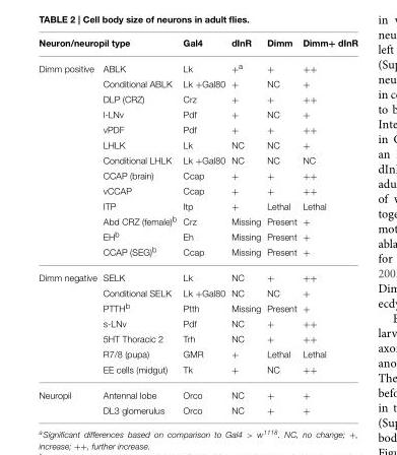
<table><thead><tr><td colspan="2">Neuron/neuropil type</td><td rowspan="2">Gal4 Lk</td><td rowspan="2">dInR +<sup>a</sup></td><td rowspan="2">Dimm +</td><td rowspan="2">Dimm+ dInR ++</td></tr><tr><td>Dimm positive</td><td>ABLK</td></tr></thead><tbody><tr><td></td><td>Conditional ABLK</td><td>Lk +Gal80</td><td>+</td><td>NC</td><td>+</td></tr><tr><td></td><td>DLP (CRZ)</td><td>Crz</td><td>+</td><td>+</td><td>++</td></tr><tr><td></td><td>l-LNv</td><td>Pdf</td><td>+</td><td>NC</td><td>+</td></tr><tr><td></td><td>vPDF</td><td>Pdf</td><td>+</td><td>+</td><td>++</td></tr><tr><td></td><td>LHLK</td><td>Lk</td><td>NC</td><td>NC</td><td>+</td></tr><tr><td></td><td>Conditional LHLK</td><td>Lk +Gal80</td><td>NC</td><td>NC</td><td>NC</td></tr><tr><td></td><td>CCAP (brain)</td><td>Ccap</td><td>+</td><td>+</td><td>++</td></tr><tr><td></td><td>vCCAP</td><td>Ccap</td><td>+</td><td>+</td><td>++</td></tr><tr><td></td><td>ITP</td><td>Itp</td><td>+</td><td>Lethal</td><td>Lethal</td></tr><tr><td></td><td>Abd CRZ (female)<sup>b</sup></td><td>Crz</td><td>Missing</td><td>Present</td><td>+</td></tr><tr><td></td><td>EH<sup>b</sup></td><td>Eh</td><td>Missing</td><td>Present</td><td>+</td></tr><tr><td></td><td>CCAP (SEG)<sup>b</sup></td><td>Ccap</td><td>Missing</td><td>Present</td><td>+</td></tr><tr><td rowspan="7">Dimm negative</td><td>SELK</td><td>Lk</td><td>NC</td><td>+</td><td>++</td></tr><tr><td>Conditional SELK</td><td>Lk +Gal80</td><td>NC</td><td>NC</td><td>+</td></tr><tr><td>PTTH<sup>b</sup></td><td>Ptth</td><td>Missing</td><td>Present</td><td>+</td></tr><tr><td>s-LNv</td><td>Pdf</td><td>NC</td><td>+</td><td>++</td></tr><tr><td>5HT Thoracic 2</td><td>Trh</td><td>NC</td><td>+</td><td>++</td></tr><tr><td>R7/8 (pupa)</td><td>GMR</td><td>+</td><td>Lethal</td><td>Lethal</td></tr><tr><td>EE cells (midgut)</td><td>Tk</td><td>+</td><td>NC</td><td>++</td></tr><tr><td rowspan="2">Neuropil</td><td>Antennal lobe</td><td>Orco</td><td>NC</td><td>+</td><td>+</td></tr><tr><td>DL3 glomerulus</td><td>Orco</td><td>NC</td><td>+</td><td>+</td></tr></tbody></table>